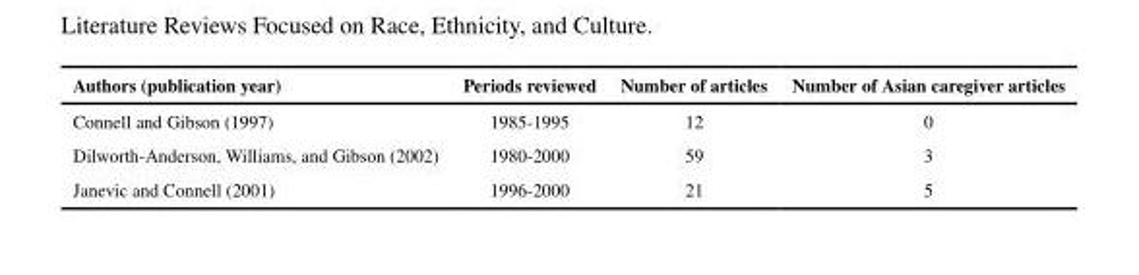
<table><thead><tr><td>Authors (publication year)</td><td>Periods reviewed</td><td>Number of articles</td><td>Number of Asian caregiver articles</td></tr></thead><tbody><tr><td>Connell and Gibson (1997)</td><td>1985-1995</td><td>12</td><td>0</td></tr><tr><td>Dilworth-Anderson, Williams, and Gibson (2002)</td><td>1980-2000</td><td>59</td><td>3</td></tr><tr><td>Janevic and Connell (2001)</td><td>1996-2000</td><td>21</td><td>5</td></tr></tbody></table>